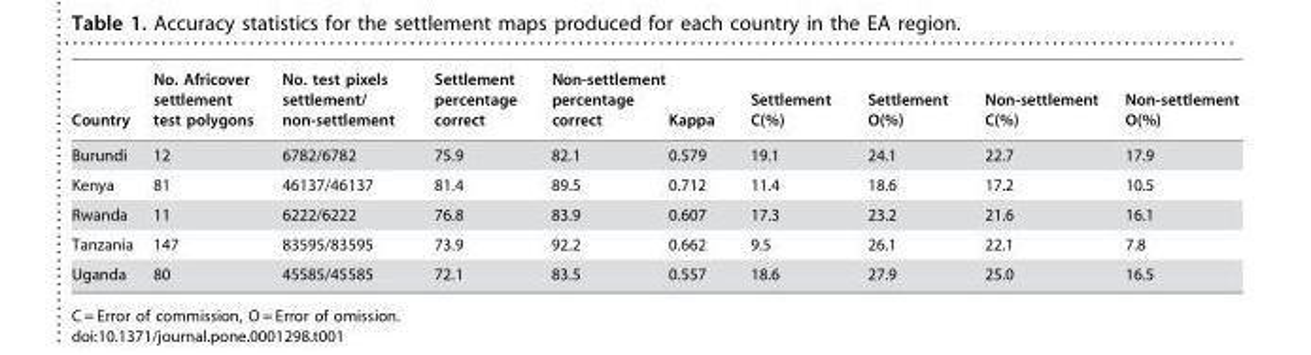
<table><thead><tr><td>Country</td><td>No. Africover settlement test polygons</td><td>No. test pixels settlement/ non-settlement</td><td>Settlement percentage correct</td><td>Non-settlement percentage correct</td><td>Kappa</td><td>Settlement C(%)</td><td>Settlement O(%)</td><td>Non-settlement C(%)</td><td>Non-settlement O(%)</td></tr></thead><tbody><tr><td>Burundi</td><td>12</td><td>6782/6782</td><td>75.9</td><td>82.1</td><td>0.579</td><td>19.1</td><td>24.1</td><td>22.7</td><td>17.9</td></tr><tr><td>Kenya</td><td>81</td><td>46137/46137</td><td>81.4</td><td>89.5</td><td>0.712</td><td>11.4</td><td>18.6</td><td>17.2</td><td>10.5</td></tr><tr><td>Rwanda</td><td>11</td><td>6222/6222</td><td>76.8</td><td>83.9</td><td>0.607</td><td>17.3</td><td>23.2</td><td>21.6</td><td>16.1</td></tr><tr><td>Tanzania</td><td>147</td><td>83595/83595</td><td>73.9</td><td>92.2</td><td>0.662</td><td>9.5</td><td>26.1</td><td>22.1</td><td>7.8</td></tr><tr><td>Uganda</td><td>80</td><td>45585/45585</td><td>72.1</td><td>83.5</td><td>0.557</td><td>18.6</td><td>27.9</td><td>25.0</td><td>16.5</td></tr></tbody></table>